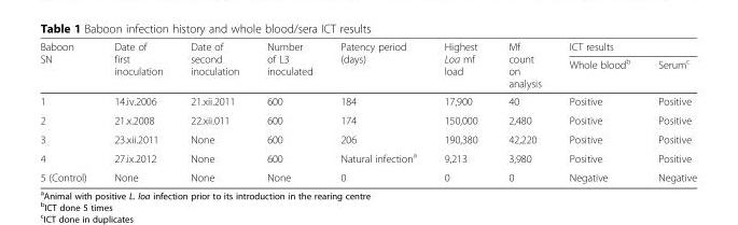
<table><thead><tr><td rowspan="2">Baboon SN</td><td rowspan="2">Date of first inoculation</td><td rowspan="2">Date of second inoculation</td><td rowspan="2">Number of L3 inoculated</td><td rowspan="2">Patency period (days)</td><td rowspan="2">Highest Loa mf load</td><td rowspan="2">Mf count on analysis</td><td colspan="2">ICT results</td></tr><tr><td>Whole blood<sup>b</sup></td><td>Serum<sup>c</sup></td></tr></thead><tbody><tr><td>1</td><td>14.iv.2006</td><td>21.xii.2011</td><td>600</td><td>184</td><td>17,900</td><td>40</td><td>Positive</td><td>Positive</td></tr><tr><td>2</td><td>21.x.2008</td><td>22.xii.011</td><td>600</td><td>174</td><td>150,000</td><td>2,480</td><td>Positive</td><td>Positive</td></tr><tr><td>3</td><td>23.xii.2011</td><td>None</td><td>600</td><td>206</td><td>190,380</td><td>42,220</td><td>Positive</td><td>Positive</td></tr><tr><td>4</td><td>27.ix.2012</td><td>None</td><td>600</td><td>Natural infection<sup>a</sup></td><td>9,213</td><td>3,980</td><td>Positive</td><td>Positive</td></tr><tr><td>5 (Control)</td><td>None</td><td>None</td><td>None</td><td>0</td><td>0</td><td>0</td><td>Negative</td><td>Negative</td></tr></tbody></table>